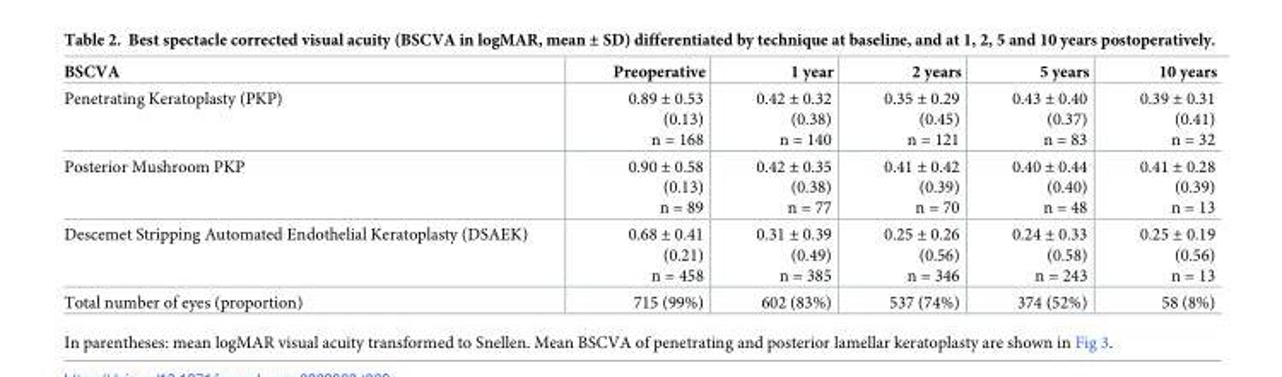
<table><thead><tr><td>BSCVA</td><td>Preoperative</td><td>1 year</td><td>2 years</td><td>5 years</td><td>10 years</td></tr></thead><tbody><tr><td>Penetrating Keratoplasty (PKP)</td><td>0.89 ± 0.53 (0.13) n = 168</td><td>0.42 ± 0.32 (0.38) n = 140</td><td>0.35 ± 0.29 (0.45) n = 121</td><td>0.43 ± 0.40 (0.37) n = 83</td><td>0.39 ± 0.31 (0.41) n = 32</td></tr><tr><td>Posterior Mushroom PKP</td><td>0.90 ± 0.58 (0.13) n = 89</td><td>0.42 ± 0.35 (0.38) n = 77</td><td>0.41 ± 0.42 (0.39) n = 70</td><td>0.40 ± 0.44 (0.40) n = 48</td><td>0.41 ± 0.28 (0.39) n = 13</td></tr><tr><td>Descemet Stripping Automated Endothelial Keratoplasty (DSAEK)</td><td>0.68 ± 0.41 (0.21) n = 458</td><td>0.31 ± 0.39 (0.49) n = 385</td><td>0.25 ± 0.26 (0.56) n = 346</td><td>0.24 ± 0.33 (0.58) n = 243</td><td>0.25 ± 0.19 (0.56) n = 13</td></tr><tr><td>Total number of eyes (proportion)</td><td>715 (99%)</td><td>602 (83%)</td><td>537 (74%)</td><td>374 (52%)</td><td>58 (8%)</td></tr></tbody></table>